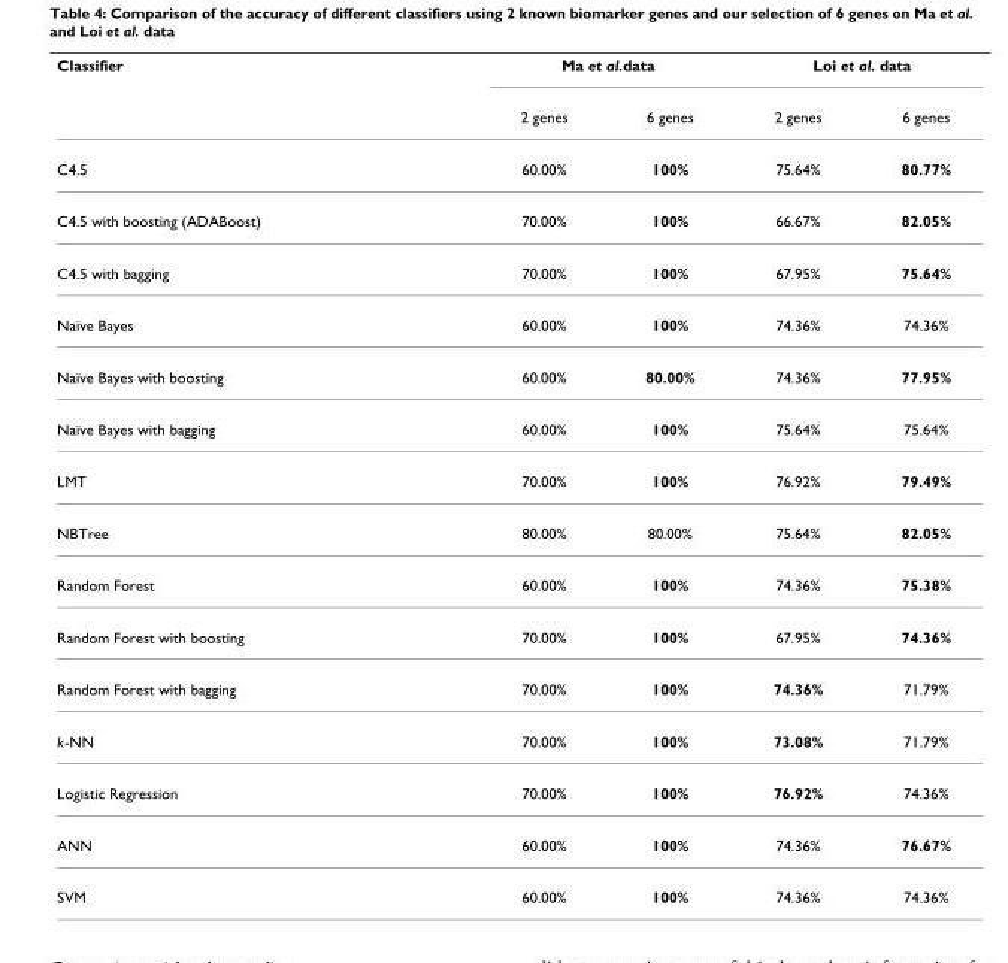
<table><thead><tr><td rowspan="2">Classifier</td><td colspan="2">Ma et al.data</td><td colspan="2">Loi et al. data</td></tr><tr><td>2 genes</td><td>6 genes</td><td>2 genes</td><td>6 genes</td></tr></thead><tbody><tr><td>C4.5</td><td>60.00%</td><td>100%</td><td>75.64%</td><td>80.77%</td></tr><tr><td>C4.5 with boosting (ADABoost)</td><td>70.00%</td><td>100%</td><td>66.67%</td><td>82.05%</td></tr><tr><td>C4.5 with bagging</td><td>70.00%</td><td>100%</td><td>67.95%</td><td>75.64%</td></tr><tr><td>Naïve Bayes</td><td>60.00%</td><td>100%</td><td>74.36%</td><td>74.36%</td></tr><tr><td>Naïve Bayes with boosting</td><td>60.00%</td><td>80.00%</td><td>74.36%</td><td>77.95%</td></tr><tr><td>Naïve Bayes with bagging</td><td>60.00%</td><td>100%</td><td>75.64%</td><td>75.64%</td></tr><tr><td>LMT</td><td>70.00%</td><td>100%</td><td>76.92%</td><td>79.49%</td></tr><tr><td>NBTree</td><td>80.00%</td><td>80.00%</td><td>75.64%</td><td>82.05%</td></tr><tr><td>Random Forest</td><td>60.00%</td><td>100%</td><td>74.36%</td><td>75.38%</td></tr><tr><td>Random Forest with boosting</td><td>70.00%</td><td>100%</td><td>67.95%</td><td>74.36%</td></tr><tr><td>Random Forest with bagging</td><td>70.00%</td><td>100%</td><td>74.36%</td><td>71.79%</td></tr><tr><td>k-NN</td><td>70.00%</td><td>100%</td><td>73.08%</td><td>71.79%</td></tr><tr><td>Logistic Regression</td><td>70.00%</td><td>100%</td><td>76.92%</td><td>74.36%</td></tr><tr><td>ANN</td><td>60.00%</td><td>100%</td><td>74.36%</td><td>76.67%</td></tr><tr><td>SVM</td><td>60.00%</td><td>100%</td><td>74.36%</td><td>74.36%</td></tr></tbody></table>